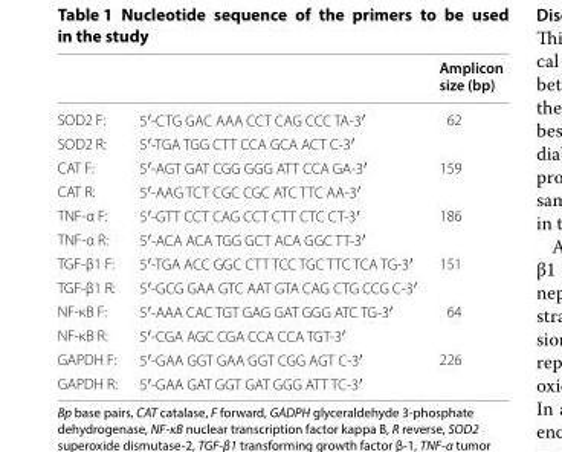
<table><thead><tr><td></td><td></td><td>Amplicon size (bp)</td></tr></thead><tbody><tr><td>SOD2 F:</td><td>5′-CTG GAC AAA CCT CAG CCC TA-3′</td><td rowspan="2">62</td></tr><tr><td>SOD2 R:</td><td>5′-TGA TGG CTT CCA GCA ACT C-3′</td></tr><tr><td>CAT F:</td><td>5′-AGT GAT CGG GGG ATT CCA GA-3′</td><td rowspan="2">159</td></tr><tr><td>CAT R:</td><td>5′-AAG TCT CGC CGC ATC TTC AA-3′</td></tr><tr><td>TNF-α F:</td><td>5′-GTT CCT CAG CCT CTT CTC CT-3′</td><td rowspan="2">186</td></tr><tr><td>TNF-α R:</td><td>5′-ACA ACA TGG GCT ACA GGC TT-3′</td></tr><tr><td>TGF-β1 F:</td><td>5′-TGA ACC GGC CTT TCC TGC TTC TCA TG-3′</td><td rowspan="2">151</td></tr><tr><td>TGF-β1 R:</td><td>5′-GCG GAA GTC AAT GTA CAG CTG CCG C-3′</td></tr><tr><td>NF-κB F:</td><td>5′-AAA CAC TGT GAG GAT GGG ATC TG-3′</td><td rowspan="2">64</td></tr><tr><td>NF-κB R:</td><td>5′-CGA AGC CGA CCA CCA TGT-3′</td></tr><tr><td>GAPDH F:</td><td>5′-GAA GGT GAA GGT CGG AGT C-3′</td><td rowspan="2">226</td></tr><tr><td>GAPDH R:</td><td>5′-GAA GAT GGT GAT GGG ATT TC-3′</td></tr></tbody></table>